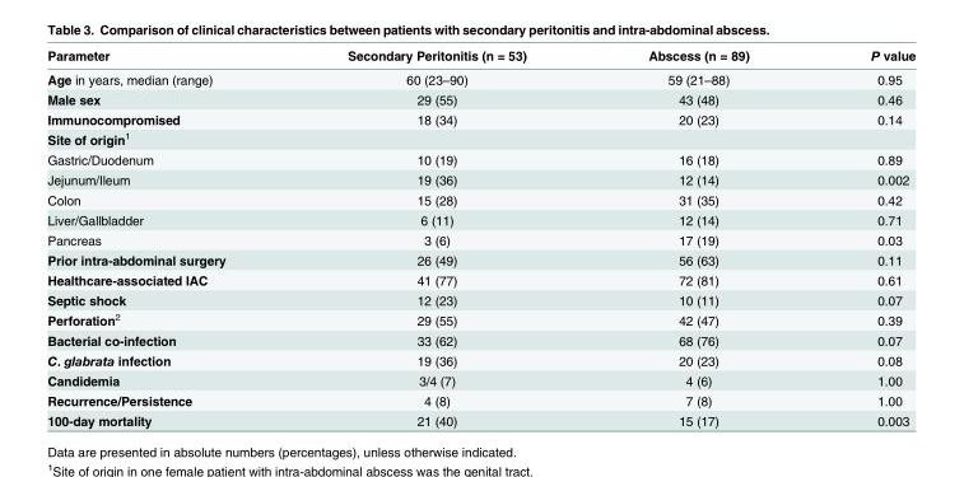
<table><thead><tr><td>Parameter</td><td>Secondary Peritonitis (n = 53)</td><td>Abscess (n = 89)</td><td>P value</td></tr></thead><tbody><tr><td>Age in years, median (range)</td><td>60 (23–90)</td><td>59 (21–88)</td><td>0.95</td></tr><tr><td>Male sex</td><td>29 (55)</td><td>43 (48)</td><td>0.46</td></tr><tr><td>Immunocompromised</td><td>18 (34)</td><td>20 (23)</td><td>0.14</td></tr><tr><td colspan="4">Site of origin<sup>1</sup></td></tr><tr><td>Gastric/Duodenum</td><td>10 (19)</td><td>16 (18)</td><td>0.89</td></tr><tr><td>Jejunum/Ileum</td><td>19 (36)</td><td>12 (14)</td><td>0.002</td></tr><tr><td>Colon</td><td>15 (28)</td><td>31 (35)</td><td>0.42</td></tr><tr><td>Liver/Gallbladder</td><td>6 (11)</td><td>12 (14)</td><td>0.71</td></tr><tr><td>Pancreas</td><td>3 (6)</td><td>17 (19)</td><td>0.03</td></tr><tr><td>Prior intra-abdominal surgery</td><td>26 (49)</td><td>56 (63)</td><td>0.11</td></tr><tr><td>Healthcare-associated IAC</td><td>41 (77)</td><td>72 (81)</td><td>0.61</td></tr><tr><td>Septic shock</td><td>12 (23)</td><td>10 (11)</td><td>0.07</td></tr><tr><td>Perforation<sup>2</sup></td><td>29 (55)</td><td>42 (47)</td><td>0.39</td></tr><tr><td>Bacterial co-infection</td><td>33 (62)</td><td>68 (76)</td><td>0.07</td></tr><tr><td>C. glabrata infection</td><td>19 (36)</td><td>20 (23)</td><td>0.08</td></tr><tr><td>Candidemia</td><td>3/4 (7)</td><td>4 (6)</td><td>1.00</td></tr><tr><td>Recurrence/Persistence</td><td>4 (8)</td><td>7 (8)</td><td>1.00</td></tr><tr><td>100-day mortality</td><td>21 (40)</td><td>15 (17)</td><td>0.003</td></tr></tbody></table>